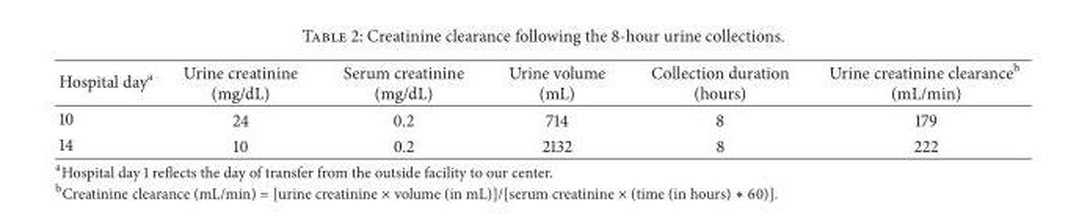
<table><thead><tr><td>Hospital day<sup>a</sup></td><td>Urine creatinine (mg/dL)</td><td>Serum creatinine (mg/dL)</td><td>Urine volume (mL)</td><td>Collection duration (hours)</td><td>Urine creatinine clearance<sup>b</sup> (mL/min)</td></tr></thead><tbody><tr><td>10</td><td>24</td><td>0.2</td><td>714</td><td>8</td><td>179</td></tr><tr><td>14</td><td>10</td><td>0.2</td><td>2132</td><td>8</td><td>222</td></tr></tbody></table>